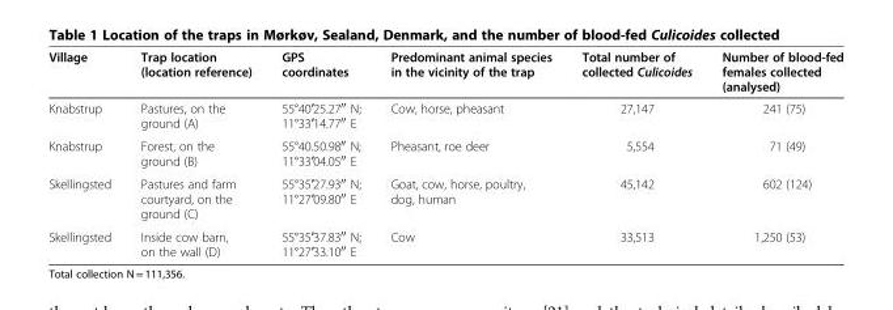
<table><thead><tr><td>Village</td><td>Trap location (location reference)</td><td>GPS coordinates</td><td>Predominant animal species in the vicinity of the trap</td><td>Total number of collected Culicoides</td><td>Number of blood-fed females collected (analysed)</td></tr></thead><tbody><tr><td>Knabstrup</td><td>Pastures, on the ground (A)</td><td>55°40′25.2700 N; 11°33′14.7700 E</td><td>Cow, horse, pheasant</td><td>27,147</td><td>241 (75)</td></tr><tr><td>Knabstrup</td><td>Forest, on the ground (B)</td><td>55°40.50.9800 N; 11°33′04.0500 E</td><td>Pheasant, roe deer</td><td>5,554</td><td>71 (49)</td></tr><tr><td>Skellingsted</td><td>Pastures and farm courtyard, on the ground (C)</td><td>55°35′27.9300 N; 11°27′09.8000 E</td><td>Goat, cow, horse, poultry, dog, human</td><td>45,142</td><td>602 (124)</td></tr><tr><td>Skellingsted</td><td>Inside cow barn, on the wall (D)</td><td>55°35′37.8300 N; 11°27′33.1000 E</td><td>Cow</td><td>33,513</td><td>1,250 (53)</td></tr></tbody></table>